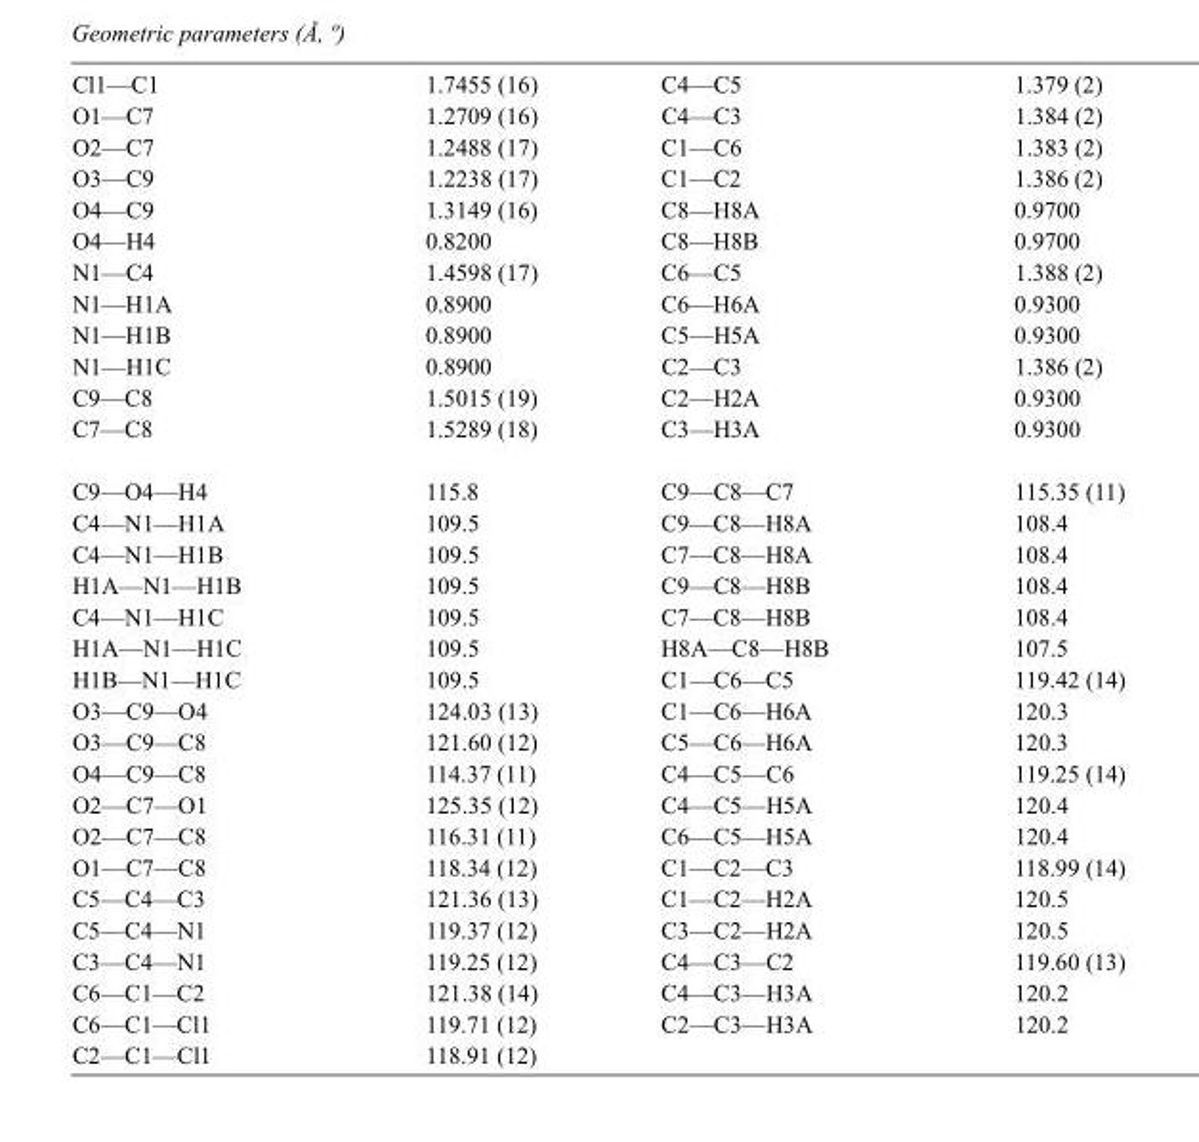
<table><tbody><tr><td>Cl1—C1</td><td>1.7455 (16)</td><td>C4—C5</td><td>1.379 (2)</td></tr><tr><td>O1—C7</td><td>1.2709 (16)</td><td>C4—C3</td><td>1.384 (2)</td></tr><tr><td>O2—C7</td><td>1.2488 (17)</td><td>C1—C6</td><td>1.383 (2)</td></tr><tr><td>O3—C9</td><td>1.2238 (17)</td><td>C1—C2</td><td>1.386 (2)</td></tr><tr><td>O4—C9</td><td>1.3149 (16)</td><td>C8—H8A</td><td>0.9700</td></tr><tr><td>O4—H4</td><td>0.8200</td><td>C8—H8B</td><td>0.9700</td></tr><tr><td>N1—C4</td><td>1.4598 (17)</td><td>C6—C5</td><td>1.388 (2)</td></tr><tr><td>N1—H1A</td><td>0.8900</td><td>C6—H6A</td><td>0.9300</td></tr><tr><td>N1—H1B</td><td>0.8900</td><td>C5—H5A</td><td>0.9300</td></tr><tr><td>N1—H1C</td><td>0.8900</td><td>C2—C3</td><td>1.386 (2)</td></tr><tr><td>C9—C8</td><td>1.5015 (19)</td><td>C2—H2A</td><td>0.9300</td></tr><tr><td>C7—C8</td><td>1.5289 (18)</td><td>C3—H3A</td><td>0.9300</td></tr><tr><td>C9—O4—H4</td><td>115.8</td><td>C9—C8—C7</td><td>115.35 (11)</td></tr><tr><td>C4—N1—H1A</td><td>109.5</td><td>C9—C8—H8A</td><td>108.4</td></tr><tr><td>C4—N1—H1B</td><td>109.5</td><td>C7—C8—H8A</td><td>108.4</td></tr><tr><td>H1A—N1—H1B</td><td>109.5</td><td>C9—C8—H8B</td><td>108.4</td></tr><tr><td>C4—N1—H1C</td><td>109.5</td><td>C7—C8—H8B</td><td>108.4</td></tr><tr><td>H1A—N1—H1C</td><td>109.5</td><td>H8A—C8—H8B</td><td>107.5</td></tr><tr><td>H1B—N1—H1C</td><td>109.5</td><td>C1—C6—C5</td><td>119.42 (14)</td></tr><tr><td>O3—C9—O4</td><td>124.03 (13)</td><td>C1—C6—H6A</td><td>120.3</td></tr><tr><td>O3—C9—C8</td><td>121.60 (12)</td><td>C5—C6—H6A</td><td>120.3</td></tr><tr><td>O4—C9—C8</td><td>114.37 (11)</td><td>C4—C5—C6</td><td>119.25 (14)</td></tr><tr><td>O2—C7—O1</td><td>125.35 (12)</td><td>C4—C5—H5A</td><td>120.4</td></tr><tr><td>O2—C7—C8</td><td>116.31 (11)</td><td>C6—C5—H5A</td><td>120.4</td></tr><tr><td>O1—C7—C8</td><td>118.34 (12)</td><td>C1—C2—C3</td><td>118.99 (14)</td></tr><tr><td>C5—C4—C3</td><td>121.36 (13)</td><td>C1—C2—H2A</td><td>120.5</td></tr><tr><td>C5—C4—N1</td><td>119.37 (12)</td><td>C3—C2—H2A</td><td>120.5</td></tr><tr><td>C3—C4—N1</td><td>119.25 (12)</td><td>C4—C3—C2</td><td>119.60 (13)</td></tr><tr><td>C6—C1—C2</td><td>121.38 (14)</td><td>C4—C3—H3A</td><td>120.2</td></tr><tr><td>C6—C1—Cl1</td><td>119.71 (12)</td><td>C2—C3—H3A</td><td>120.2</td></tr><tr><td>C2—C1—Cl1</td><td>118.91 (12)</td><td></td><td></td></tr></tbody></table>